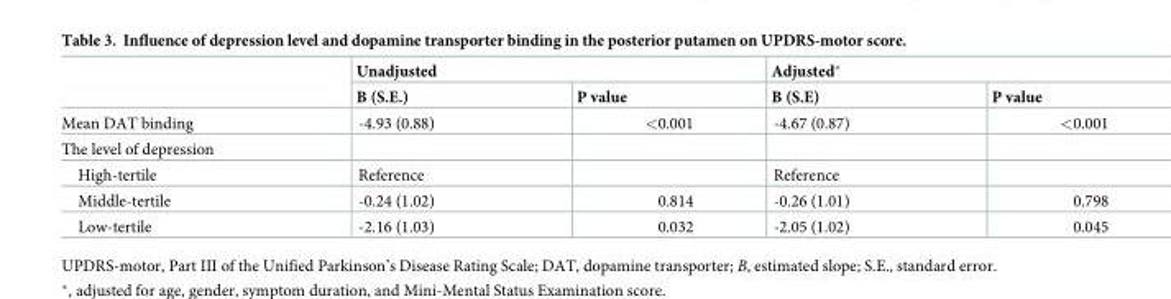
<table><thead><tr><td rowspan="2"></td><td colspan="2">Unadjusted</td><td colspan="2">Adjusted*</td></tr><tr><td>B (S.E.)</td><td>P value</td><td>B (S.E)</td><td>P value</td></tr></thead><tbody><tr><td>Mean DAT binding</td><td>-4.93 (0.88)</td><td>&lt;0.001</td><td>-4.67 (0.87)</td><td>&lt;0.001</td></tr><tr><td colspan="5">The level of depression</td></tr><tr><td>High-tertile</td><td>Reference</td><td></td><td>Reference</td><td></td></tr><tr><td>Middle-tertile</td><td>-0.24 (1.02)</td><td>0.814</td><td>-0.26 (1.01)</td><td>0.798</td></tr><tr><td>Low-tertile</td><td>-2.16 (1.03)</td><td>0.032</td><td>-2.05 (1.02)</td><td>0.045</td></tr></tbody></table>